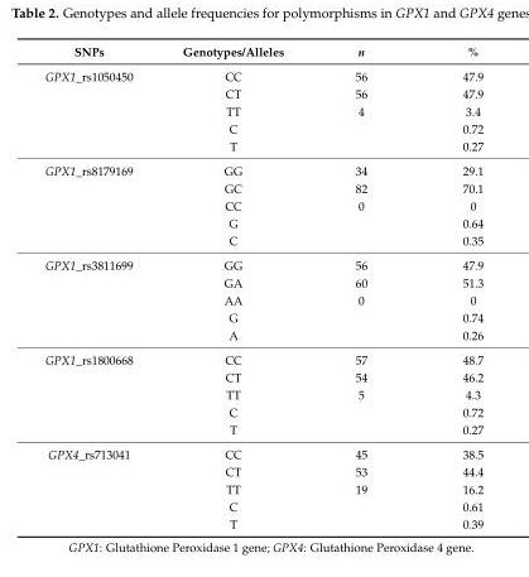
<table><thead><tr><td>SNPs</td><td>Genotypes/Alleles</td><td>n</td><td>%</td></tr></thead><tbody><tr><td rowspan="5">GPX1_rs1050450</td><td>CC</td><td>56</td><td>47.9</td></tr><tr><td>CT</td><td>56</td><td>47.9</td></tr><tr><td>TT</td><td>4</td><td>3.4</td></tr><tr><td>C</td><td></td><td>0.72</td></tr><tr><td>T</td><td></td><td>0.27</td></tr><tr><td rowspan="5">GPX1_rs8179169</td><td>GG</td><td>34</td><td>29.1</td></tr><tr><td>GC</td><td>82</td><td>70.1</td></tr><tr><td>CC</td><td>0</td><td>0</td></tr><tr><td>G</td><td></td><td>0.64</td></tr><tr><td>C</td><td></td><td>0.35</td></tr><tr><td rowspan="5">GPX1_rs3811699</td><td>GG</td><td>56</td><td>47.9</td></tr><tr><td>GA</td><td>60</td><td>51.3</td></tr><tr><td>AA</td><td>0</td><td>0</td></tr><tr><td>G</td><td></td><td>0.74</td></tr><tr><td>A</td><td></td><td>0.26</td></tr><tr><td rowspan="5">GPX1_rs1800668</td><td>CC</td><td>57</td><td>48.7</td></tr><tr><td>CT</td><td>54</td><td>46.2</td></tr><tr><td>TT</td><td>5</td><td>4.3</td></tr><tr><td>C</td><td></td><td>0.72</td></tr><tr><td>T</td><td></td><td>0.27</td></tr><tr><td rowspan="5">GPX4_rs713041</td><td>CC</td><td>45</td><td>38.5</td></tr><tr><td>CT</td><td>53</td><td>44.4</td></tr><tr><td>TT</td><td>19</td><td>16.2</td></tr><tr><td>C</td><td></td><td>0.61</td></tr><tr><td>T</td><td></td><td>0.39</td></tr></tbody></table>